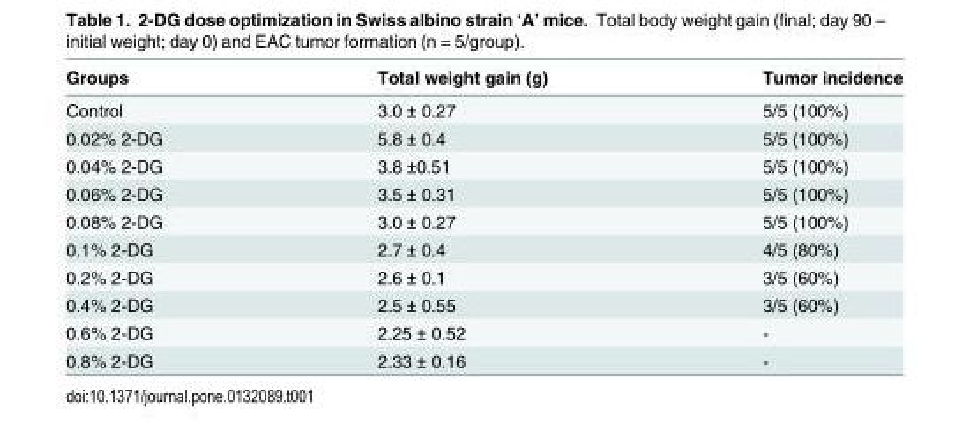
<table><thead><tr><td>Groups</td><td>Total weight gain (g)</td><td>Tumor incidence</td></tr></thead><tbody><tr><td>Control</td><td>3.0 ± 0.27</td><td>5/5 (100%)</td></tr><tr><td>0.02% 2-DG</td><td>5.8 ± 0.4</td><td>5/5 (100%)</td></tr><tr><td>0.04% 2-DG</td><td>3.8 ±0.51</td><td>5/5 (100%)</td></tr><tr><td>0.06% 2-DG</td><td>3.5 ± 0.31</td><td>5/5 (100%)</td></tr><tr><td>0.08% 2-DG</td><td>3.0 ± 0.27</td><td>5/5 (100%)</td></tr><tr><td>0.1% 2-DG</td><td>2.7 ± 0.4</td><td>4/5 (80%)</td></tr><tr><td>0.2% 2-DG</td><td>2.6 ± 0.1</td><td>3/5 (60%)</td></tr><tr><td>0.4% 2-DG</td><td>2.5 ± 0.55</td><td>3/5 (60%)</td></tr><tr><td>0.6% 2-DG</td><td>2.25 ± 0.52</td><td>-</td></tr><tr><td>0.8% 2-DG</td><td>2.33 ± 0.16</td><td>-</td></tr></tbody></table>